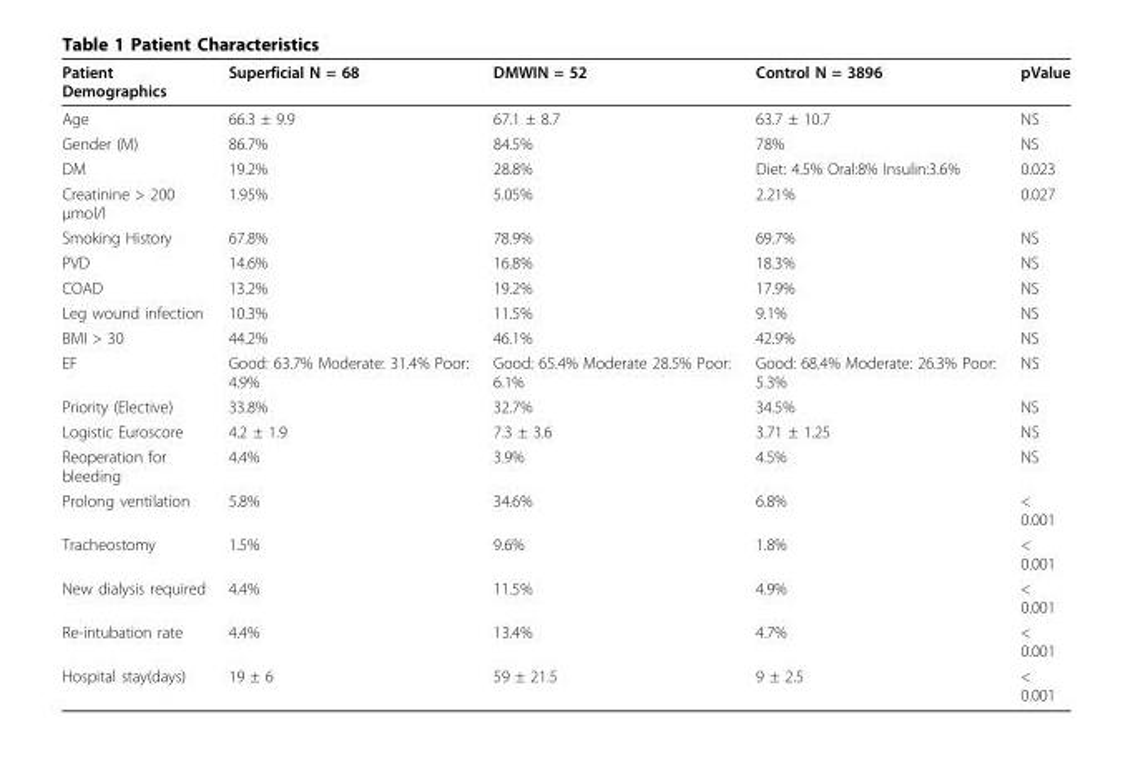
<table><thead><tr><td>Patient Demographics</td><td>Superficial N = 68</td><td>DMWIN = 52</td><td>Control N = 3896</td><td>pValue</td></tr></thead><tbody><tr><td>Age</td><td>66.3 ± 9.9</td><td>67.1 ± 8.7</td><td>63.7 ± 10.7</td><td>NS</td></tr><tr><td>Gender (M)</td><td>86.7%</td><td>84.5%</td><td>78%</td><td>NS</td></tr><tr><td>DM</td><td>19.2%</td><td>28.8%</td><td>Diet: 4.5% Oral:8% Insulin:3.6%</td><td>0.023</td></tr><tr><td>Creatinine &gt; 200 μmol/l</td><td>1.95%</td><td>5.05%</td><td>2.21%</td><td>0.027</td></tr><tr><td>Smoking History</td><td>67.8%</td><td>78.9%</td><td>69.7%</td><td>NS</td></tr><tr><td>PVD</td><td>14.6%</td><td>16.8%</td><td>18.3%</td><td>NS</td></tr><tr><td>COAD</td><td>13.2%</td><td>19.2%</td><td>17.9%</td><td>NS</td></tr><tr><td>Leg wound infection</td><td>10.3%</td><td>11.5%</td><td>9.1%</td><td>NS</td></tr><tr><td>BMI &gt; 30</td><td>44.2%</td><td>46.1%</td><td>42.9%</td><td>NS</td></tr><tr><td>EF</td><td>Good: 63.7% Moderate: 31.4% Poor: 4.9%</td><td>Good: 65.4% Moderate 28.5% Poor: 6.1%</td><td>Good: 68.4% Moderate: 26.3% Poor: 5.3%</td><td>NS</td></tr><tr><td>Priority (Elective)</td><td>33.8%</td><td>32.7%</td><td>34.5%</td><td>NS</td></tr><tr><td>Logistic Euroscore</td><td>4.2 ± 1.9</td><td>7.3 ± 3.6</td><td>3.71 ± 1.25</td><td>NS</td></tr><tr><td>Reoperation for bleeding</td><td>4.4%</td><td>3.9%</td><td>4.5%</td><td>NS</td></tr><tr><td>Prolong ventilation</td><td>5.8%</td><td>34.6%</td><td>6.8%</td><td>&lt; 0.001</td></tr><tr><td>Tracheostomy</td><td>1.5%</td><td>9.6%</td><td>1.8%</td><td>&lt; 0.001</td></tr><tr><td>New dialysis required</td><td>4.4%</td><td>11.5%</td><td>4.9%</td><td>&lt; 0.001</td></tr><tr><td>Re-intubation rate</td><td>4.4%</td><td>13.4%</td><td>4.7%</td><td>&lt; 0.001</td></tr><tr><td>Hospital stay(days)</td><td>19 ± 6</td><td>59 ± 21.5</td><td>9 ± 2.5</td><td>&lt; 0.001</td></tr></tbody></table>